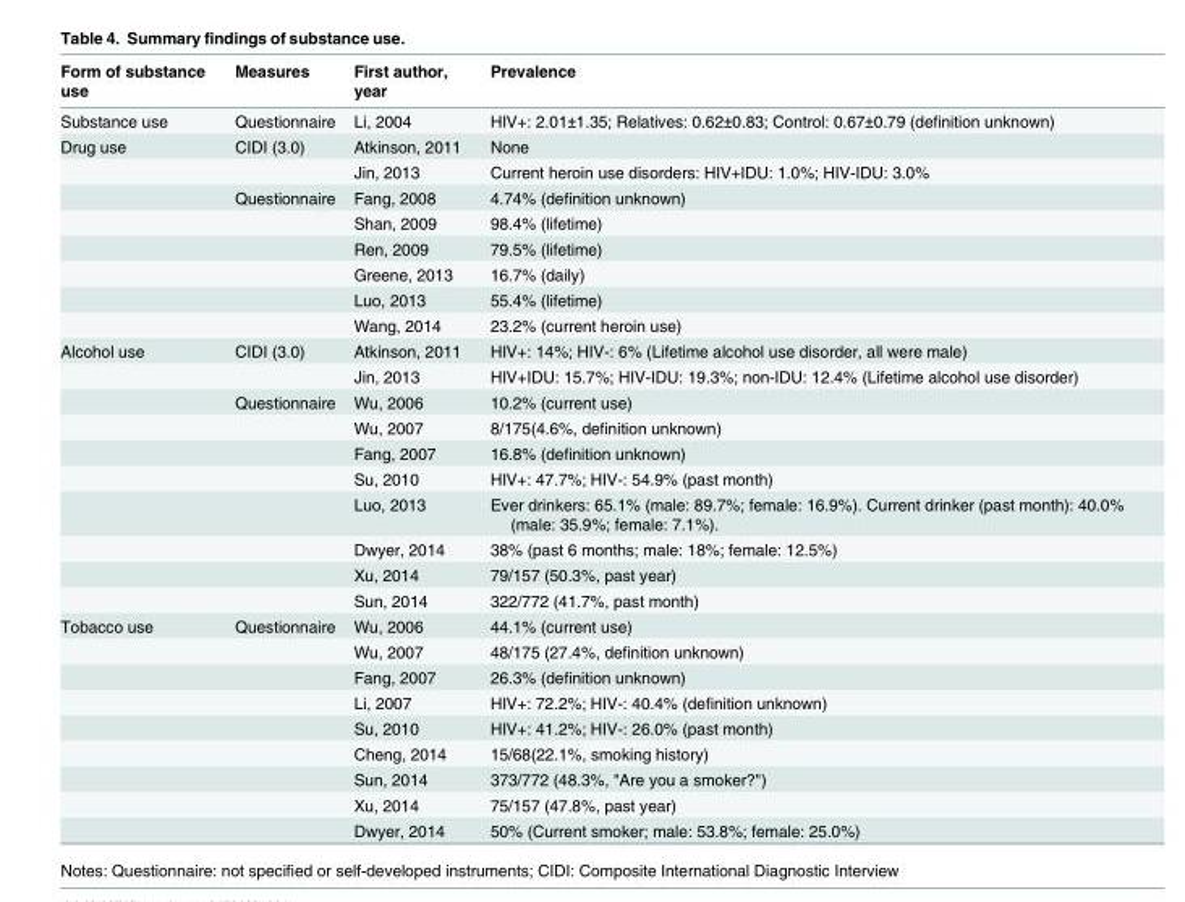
<table><thead><tr><td>Form of substance use</td><td>Measures</td><td>First author, year</td><td>Prevalence</td></tr></thead><tbody><tr><td>Substance use</td><td>Questionnaire</td><td>Li, 2004</td><td>HIV+: 2.01±1.35; Relatives: 0.62±0.83; Control: 0.67±0.79 (definition unknown)</td></tr><tr><td rowspan="8">Drug use</td><td>CIDI (3.0)</td><td>Atkinson, 2011</td><td>None</td></tr><tr><td></td><td>Jin, 2013</td><td>Current heroin use disorders: HIV+IDU: 1.0%; HIV-IDU: 3.0%</td></tr><tr><td>Questionnaire</td><td>Fang, 2008</td><td>4.74% (definition unknown)</td></tr><tr><td></td><td>Shan, 2009</td><td>98.4% (lifetime)</td></tr><tr><td></td><td>Ren, 2009</td><td>79.5% (lifetime)</td></tr><tr><td></td><td>Greene, 2013</td><td>16.7% (daily)</td></tr><tr><td></td><td>Luo, 2013</td><td>55.4% (lifetime)</td></tr><tr><td></td><td>Wang, 2014</td><td>23.2% (current heroin use)</td></tr><tr><td rowspan="10">Alcohol use</td><td>CIDI (3.0)</td><td>Atkinson, 2011</td><td>HIV+: 14%; HIV-: 6% (Lifetime alcohol use disorder, all were male)</td></tr><tr><td></td><td>Jin, 2013</td><td>HIV+IDU: 15.7%; HIV-IDU: 19.3%; non-IDU: 12.4% (Lifetime alcohol use disorder)</td></tr><tr><td>Questionnaire</td><td>Wu, 2006</td><td>10.2% (current use)</td></tr><tr><td></td><td>Wu, 2007</td><td>8/175(4.6%, definition unknown)</td></tr><tr><td></td><td>Fang, 2007</td><td>16.8% (definition unknown)</td></tr><tr><td></td><td>Su, 2010</td><td>HIV+: 47.7%; HIV-: 54.9% (past month)</td></tr><tr><td></td><td>Luo, 2013</td><td>Ever drinkers: 65.1% (male: 89.7%; female: 16.9%). Current drinker (past month): 40.0% (male: 35.9%; female: 7.1%).</td></tr><tr><td></td><td>Dwyer, 2014</td><td>38% (past 6 months; male: 18%; female: 12.5%)</td></tr><tr><td></td><td>Xu, 2014</td><td>79/157 (50.3%, past year)</td></tr><tr><td></td><td>Sun, 2014</td><td>322/772 (41.7%, past month)</td></tr><tr><td rowspan="9">Tobacco use</td><td>Questionnaire</td><td>Wu, 2006</td><td>44.1% (current use)</td></tr><tr><td></td><td>Wu, 2007</td><td>48/175 (27.4%, definition unknown)</td></tr><tr><td></td><td>Fang, 2007</td><td>26.3% (definition unknown)</td></tr><tr><td></td><td>Li, 2007</td><td>HIV+: 72.2%; HIV-: 40.4% (definition unknown)</td></tr><tr><td></td><td>Su, 2010</td><td>HIV+: 41.2%; HIV-: 26.0% (past month)</td></tr><tr><td></td><td>Cheng, 2014</td><td>15/68(22.1%, smoking history)</td></tr><tr><td></td><td>Sun, 2014</td><td>373/772 (48.3%, &quot;Are you a smoker?&quot;)</td></tr><tr><td></td><td>Xu, 2014</td><td>75/157 (47.8%, past year)</td></tr><tr><td></td><td>Dwyer, 2014</td><td>50% (Current smoker; male: 53.8%; female: 25.0%)</td></tr></tbody></table>